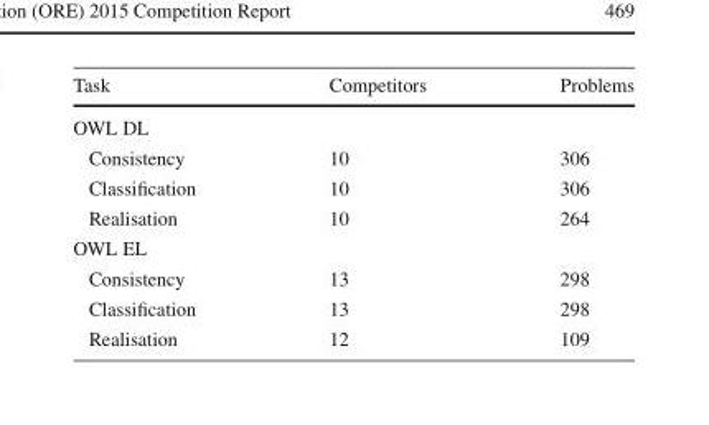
<table><thead><tr><td>Task</td><td>Competitors</td><td>Problems</td></tr></thead><tbody><tr><td colspan="3">OWL DL</td></tr><tr><td>Consistency</td><td>10</td><td>306</td></tr><tr><td>Classification</td><td>10</td><td>306</td></tr><tr><td>Realisation</td><td>10</td><td>264</td></tr><tr><td colspan="3">OWL EL</td></tr><tr><td>Consistency</td><td>13</td><td>298</td></tr><tr><td>Classification</td><td>13</td><td>298</td></tr><tr><td>Realisation</td><td>12</td><td>109</td></tr></tbody></table>